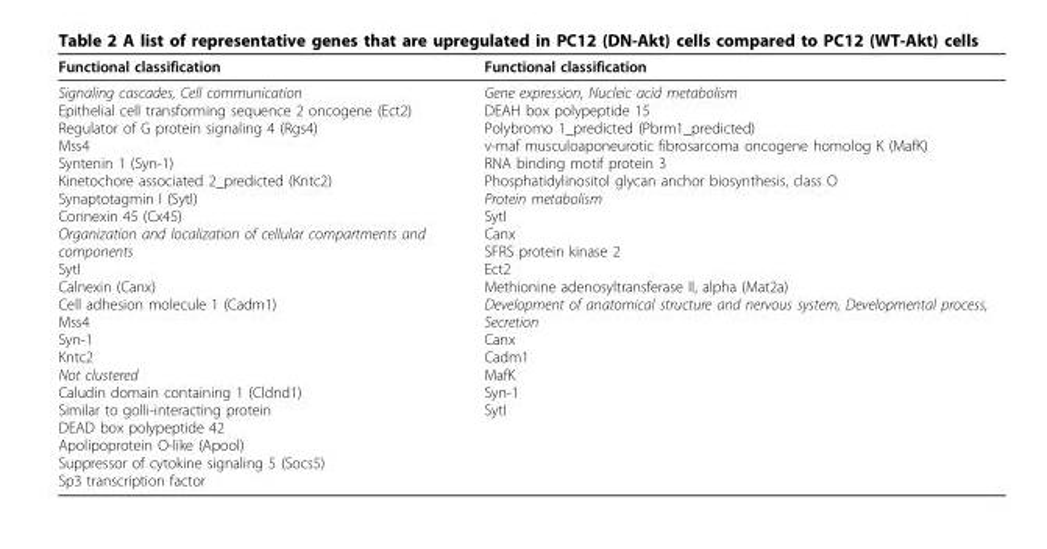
<table><thead><tr><td>Functional classification</td><td>Functional classification</td></tr></thead><tbody><tr><td>Signaling cascades, Cell communication Epithelial cell transforming sequence 2 oncogene (Ect2) Regulator of G protein signaling 4 (Rgs4) Mss4 Syntenin 1 (Syn-1) Kinetochore associated 2_predicted (Kntc2) Synaptotagmin I (SytI) Connexin 45 (Cx45) Organization and localization of cellular compartments and components SytI Calnexin (Canx) Cell adhesion molecule 1 (Cadm1) Mss4 Syn-1 Kntc2 Not clustered Caludin domain containing 1 (Cldnd1) Similar to golli-interacting protein DEAD box polypeptide 42 Apolipoprotein O-like (Apool) Suppressor of cytokine signaling 5 (Socs5) Sp3 transcription factor</td><td>Gene expression, Nucleic acid metabolism DEAH box polypeptide 15 Polybromo 1_predicted (Pbrm1_predicted) v-maf musculoaponeurotic fibrosarcoma oncogene homolog K (MafK) RNA binding motif protein 3 Phosphatidylinositol glycan anchor biosynthesis, class O Protein metabolism SytI Canx SFRS protein kinase 2 Ect2 Methionine adenosyltransferase II, alpha (Mat2a) Development of anatomical structure and nervous system, Developmental process, Secretion Canx Cadm1 MafK Syn-1 SytI</td></tr></tbody></table>